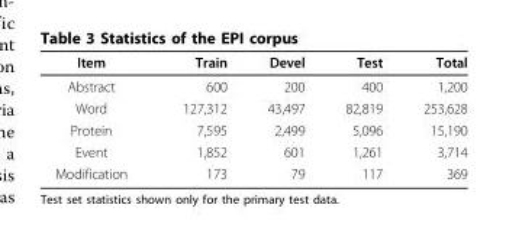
<table><thead><tr><td>Item</td><td>Train</td><td>Devel</td><td>Test</td><td>Total</td></tr></thead><tbody><tr><td>Abstract</td><td>600</td><td>200</td><td>400</td><td>1,200</td></tr><tr><td>Word</td><td>127,312</td><td>43,497</td><td>82,819</td><td>253,628</td></tr><tr><td>Protein</td><td>7,595</td><td>2,499</td><td>5,096</td><td>15,190</td></tr><tr><td>Event</td><td>1,852</td><td>601</td><td>1,261</td><td>3,714</td></tr><tr><td>Modification</td><td>173</td><td>79</td><td>117</td><td>369</td></tr></tbody></table>